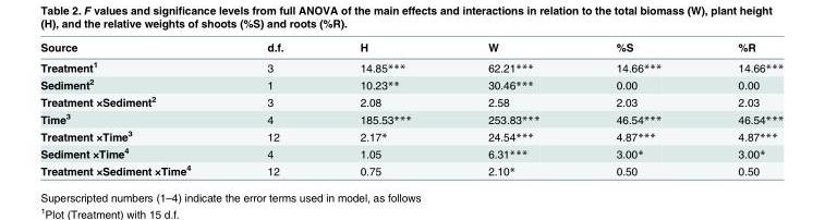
<table><thead><tr><td>Source</td><td>d.f.</td><td>H</td><td>W</td><td>%S</td><td>%R</td></tr></thead><tbody><tr><td>Treatment<sup>1</sup></td><td>3</td><td>14.85***</td><td>62.21***</td><td>14.66***</td><td>14.66***</td></tr><tr><td>Sediment<sup>2</sup></td><td>1</td><td>10.23**</td><td>30.46***</td><td>0.00</td><td>0.00</td></tr><tr><td>Treatment ×Sediment<sup>2</sup></td><td>3</td><td>2.08</td><td>2.58</td><td>2.03</td><td>2.03</td></tr><tr><td>Time<sup>3</sup></td><td>4</td><td>185.53***</td><td>253.83***</td><td>46.54***</td><td>46.54***</td></tr><tr><td>Treatment ×Time<sup>3</sup></td><td>12</td><td>2.17*</td><td>24.54***</td><td>4.87***</td><td>4.87***</td></tr><tr><td>Sediment ×Time<sup>4</sup></td><td>4</td><td>1.05</td><td>6.31***</td><td>3.00*</td><td>3.00*</td></tr><tr><td>Treatment ×Sediment ×Time<sup>4</sup></td><td>12</td><td>0.75</td><td>2.10*</td><td>0.50</td><td>0.50</td></tr></tbody></table>